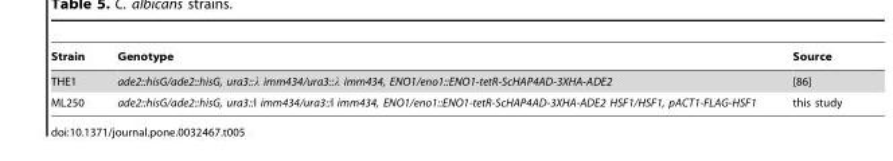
<table><thead><tr><td>Strain</td><td>Genotype</td><td>Source</td></tr></thead><tbody><tr><td>THE1</td><td>ade2::hisG/ade2::hisG, ura3::λ imm434/ura3::λ imm434, ENO1/eno1::ENO1-tetR-ScHAP4AD-3XHA-ADE2</td><td>[86]</td></tr><tr><td>ML250</td><td>ade2::hisG/ade2::hisG, ura3::l imm434/ura3::l imm434, ENO1/eno1::ENO1-tetR-ScHAP4AD-3XHA-ADE2 HSF1/HSF1, pACT1-FLAG-HSF1</td><td>this study</td></tr></tbody></table>